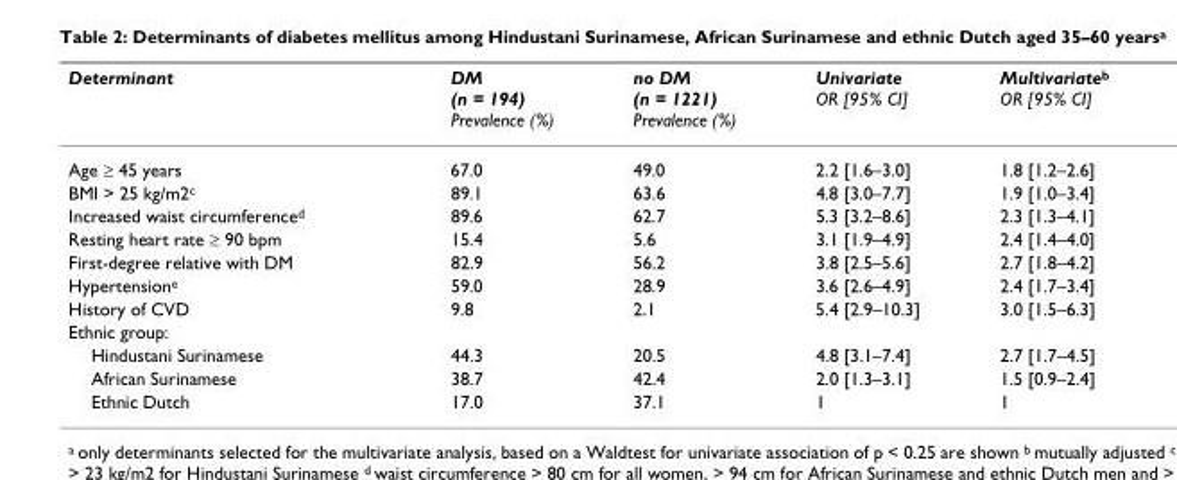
<table><thead><tr><td>Determinant</td><td>DM (n = 194) Prevalence (%)</td><td>no DM (n = 1221) Prevalence (%)</td><td>Univariate OR [95% CI]</td><td>Multivariate<sup>b</sup> OR [95% CI]</td></tr></thead><tbody><tr><td>Age ≥ 45 years</td><td>67.0</td><td>49.0</td><td>2.2 [1.6–3.0]</td><td>1.8 [1.2–2.6]</td></tr><tr><td>BMI &gt; 25 kg/m2<sup>c</sup></td><td>89.1</td><td>63.6</td><td>4.8 [3.0–7.7]</td><td>1.9 [1.0–3.4]</td></tr><tr><td>Increased waist circumference<sup>d</sup></td><td>89.6</td><td>62.7</td><td>5.3 [3.2–8.6]</td><td>2.3 [1.3–4.1]</td></tr><tr><td>Resting heart rate ≥ 90 bpm</td><td>15.4</td><td>5.6</td><td>3.1 [1.9–4.9]</td><td>2.4 [1.4–4.0]</td></tr><tr><td>First-degree relative with DM</td><td>82.9</td><td>56.2</td><td>3.8 [2.5–5.6]</td><td>2.7 [1.8–4.2]</td></tr><tr><td>Hypertension<sup>e</sup></td><td>59.0</td><td>28.9</td><td>3.6 [2.6–4.9]</td><td>2.4 [1.7–3.4]</td></tr><tr><td>History of CVD</td><td>9.8</td><td>2.1</td><td>5.4 [2.9–10.3]</td><td>3.0 [1.5–6.3]</td></tr><tr><td colspan="5">Ethnic group:</td></tr><tr><td>Hindustani Surinamese</td><td>44.3</td><td>20.5</td><td>4.8 [3.1–7.4]</td><td>2.7 [1.7–4.5]</td></tr><tr><td>African Surinamese</td><td>38.7</td><td>42.4</td><td>2.0 [1.3–3.1]</td><td>1.5 [0.9–2.4]</td></tr><tr><td>Ethnic Dutch</td><td>17.0</td><td>37.1</td><td>1</td><td>1</td></tr></tbody></table>